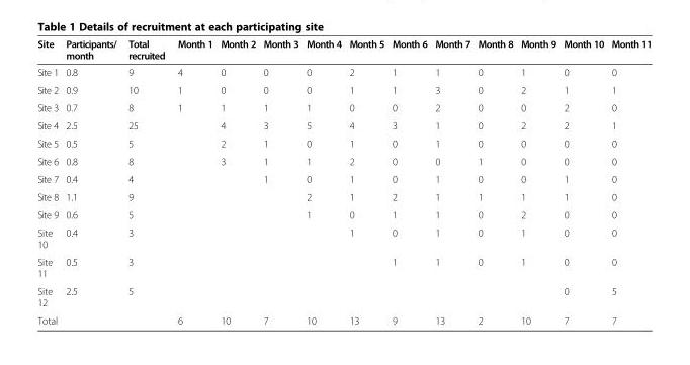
<table><thead><tr><td>Site</td><td>Participants/ month</td><td>Total recruited</td><td>Month 1</td><td>Month 2</td><td>Month 3</td><td>Month 4</td><td>Month 5</td><td>Month 6</td><td>Month 7</td><td>Month 8</td><td>Month 9</td><td>Month 10</td><td>Month 11</td></tr></thead><tbody><tr><td>Site 1</td><td>0.8</td><td>9</td><td>4</td><td>0</td><td>0</td><td>0</td><td>2</td><td>1</td><td>1</td><td>0</td><td>1</td><td>0</td><td>0</td></tr><tr><td>Site 2</td><td>0.9</td><td>10</td><td>1</td><td>0</td><td>0</td><td>0</td><td>1</td><td>1</td><td>3</td><td>0</td><td>2</td><td>1</td><td>1</td></tr><tr><td>Site 3</td><td>0.7</td><td>8</td><td>1</td><td>1</td><td>1</td><td>1</td><td>0</td><td>0</td><td>2</td><td>0</td><td>0</td><td>2</td><td>0</td></tr><tr><td>Site 4</td><td>2.5</td><td>25</td><td></td><td>4</td><td>3</td><td>5</td><td>4</td><td>3</td><td>1</td><td>0</td><td>2</td><td>2</td><td>1</td></tr><tr><td>Site 5</td><td>0.5</td><td>5</td><td></td><td>2</td><td>1</td><td>0</td><td>1</td><td>0</td><td>1</td><td>0</td><td>0</td><td>0</td><td>0</td></tr><tr><td>Site 6</td><td>0.8</td><td>8</td><td></td><td>3</td><td>1</td><td>1</td><td>2</td><td>0</td><td>0</td><td>1</td><td>0</td><td>0</td><td>0</td></tr><tr><td>Site 7</td><td>0.4</td><td>4</td><td></td><td></td><td>1</td><td>0</td><td>1</td><td>0</td><td>1</td><td>0</td><td>0</td><td>1</td><td>0</td></tr><tr><td>Site 8</td><td>1.1</td><td>9</td><td></td><td></td><td></td><td>2</td><td>1</td><td>2</td><td>1</td><td>1</td><td>1</td><td>1</td><td>0</td></tr><tr><td>Site 9</td><td>0.6</td><td>5</td><td></td><td></td><td></td><td>1</td><td>0</td><td>1</td><td>1</td><td>0</td><td>2</td><td>0</td><td>0</td></tr><tr><td>Site 10</td><td>0.4</td><td>3</td><td></td><td></td><td></td><td></td><td>1</td><td>0</td><td>1</td><td>0</td><td>1</td><td>0</td><td>0</td></tr><tr><td>Site 11</td><td>0.5</td><td>3</td><td></td><td></td><td></td><td></td><td></td><td>1</td><td>1</td><td>0</td><td>1</td><td>0</td><td>0</td></tr><tr><td>Site 12</td><td>2.5</td><td>5</td><td></td><td></td><td></td><td></td><td></td><td></td><td></td><td></td><td></td><td>0</td><td>5</td></tr><tr><td>Total</td><td></td><td></td><td>6</td><td>10</td><td>7</td><td>10</td><td>13</td><td>9</td><td>13</td><td>2</td><td>10</td><td>7</td><td>7</td></tr></tbody></table>